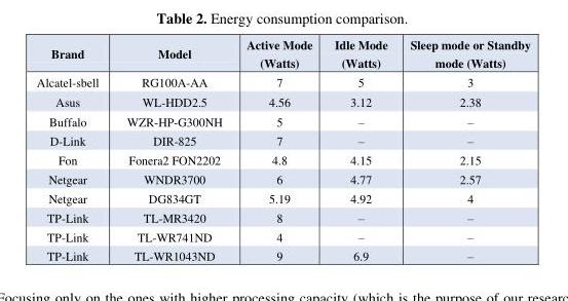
<table><thead><tr><td>Brand</td><td>Model</td><td>Active Mode (Watts)</td><td>Idle Mode (Watts)</td><td>Sleep mode or Standby mode (Watts)</td></tr></thead><tbody><tr><td>Alcatel-sbell</td><td>RG100A-AA</td><td>7</td><td>5</td><td>3</td></tr><tr><td>Asus</td><td>WL-HDD2.5</td><td>4.56</td><td>3.12</td><td>2.38</td></tr><tr><td>Buffalo</td><td>WZR-HP-G300NH</td><td>5</td><td>–</td><td>–</td></tr><tr><td>D-Link</td><td>DIR-825</td><td>7</td><td>–</td><td>–</td></tr><tr><td>Fon</td><td>Fonera2 FON2202</td><td>4.8</td><td>4.15</td><td>2.15</td></tr><tr><td>Netgear</td><td>WNDR3700</td><td>6</td><td>4.77</td><td>2.57</td></tr><tr><td>Netgear</td><td>DG834GT</td><td>5.19</td><td>4.92</td><td>4</td></tr><tr><td>TP-Link</td><td>TL-MR3420</td><td>8</td><td>–</td><td>–</td></tr><tr><td>TP-Link</td><td>TL-WR741ND</td><td>4</td><td>–</td><td>–</td></tr><tr><td>TP-Link</td><td>TL-WR1043ND</td><td>9</td><td>6.9</td><td>–</td></tr></tbody></table>